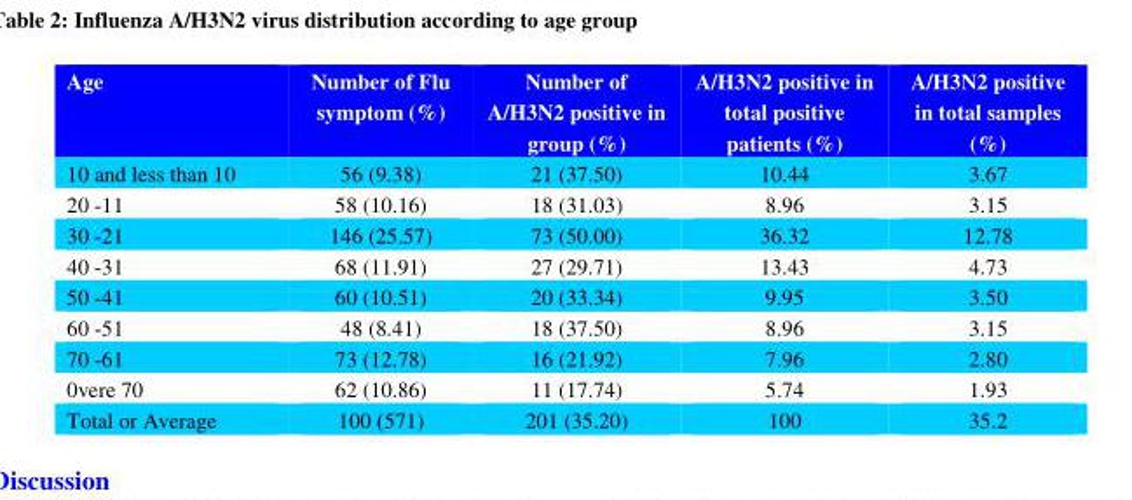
<table><thead><tr><td>Age</td><td>Number of Flu symptom (%)</td><td>Number of A/H3N2 positive in group (%)</td><td>A/H3N2 positive in total positive patients (%)</td><td>A/H3N2 positive in total samples (%)</td></tr></thead><tbody><tr><td>10 and less than 10</td><td>56 (9.38)</td><td>21 (37.50)</td><td>10.44</td><td>3.67</td></tr><tr><td>20 - 11</td><td>58 (10.16)</td><td>18 (31.03)</td><td>8.96</td><td>3.15</td></tr><tr><td>30 - 21</td><td>146 (25.57)</td><td>73 (50.00)</td><td>36.32</td><td>12.78</td></tr><tr><td>40 - 31</td><td>68 (11.91)</td><td>27 (29.71)</td><td>13.43</td><td>4.73</td></tr><tr><td>50 - 41</td><td>60 (10.51)</td><td>20 (33.34)</td><td>9.95</td><td>3.50</td></tr><tr><td>60 - 51</td><td>48 (8.41)</td><td>18 (37.50)</td><td>8.96</td><td>3.15</td></tr><tr><td>70 - 61</td><td>73 (12.78)</td><td>16 (21.92)</td><td>7.96</td><td>2.80</td></tr><tr><td>0vere 70</td><td>62 (10.86)</td><td>11 (17.74)</td><td>5.74</td><td>1.93</td></tr><tr><td>Total or Average</td><td>100 )571)</td><td>201 (35.20)</td><td>100</td><td>35.2</td></tr></tbody></table>